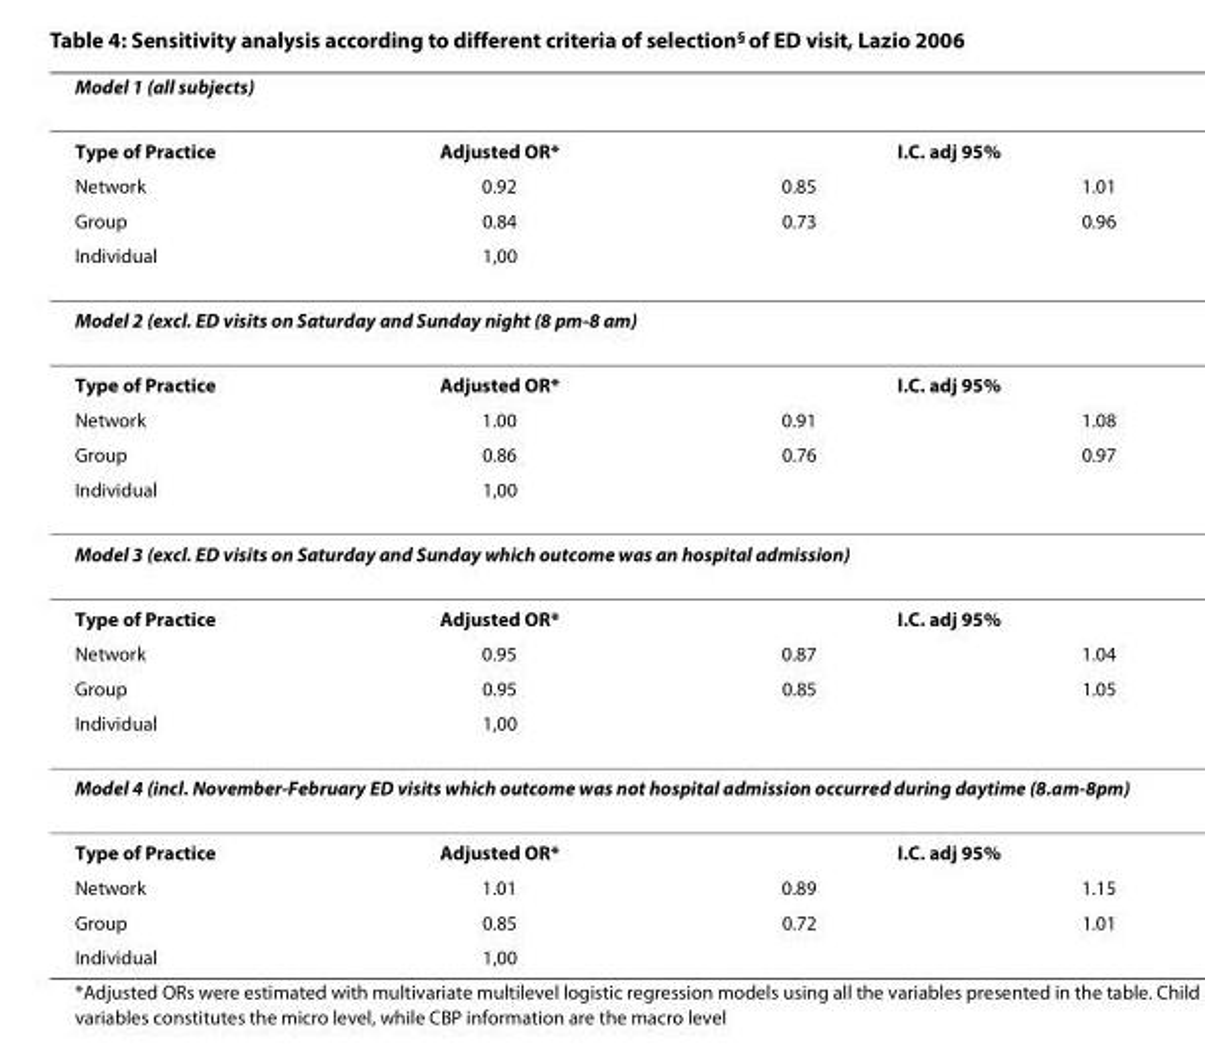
<table><thead><tr><td colspan="4">Model 1 (all subjects)</td></tr><tr><td rowspan="2">Type of Practice Network</td><td rowspan="2">Adjusted OR* 0.92</td><td colspan="2">I.C. adj 95%</td></tr><tr><td>0.85</td><td>1.01</td></tr></thead><tbody><tr><td>Group</td><td>0.84</td><td>0.73</td><td>0.96</td></tr><tr><td>Individual</td><td>1,00</td><td></td><td></td></tr><tr><td colspan="4">Model 2 (excl. ED visits on Saturday and Sunday night (8 pm-8 am)</td></tr><tr><td>Type of Practice</td><td>Adjusted OR*</td><td colspan="2">I.C. adj 95%</td></tr><tr><td>Network</td><td>1.00</td><td>0.91</td><td>1.08</td></tr><tr><td>Group</td><td>0.86</td><td>0.76</td><td>0.97</td></tr><tr><td>Individual</td><td>1,00</td><td></td><td></td></tr><tr><td colspan="4">Model 3 (excl. ED visits on Saturday and Sunday which outcome was an hospital admission)</td></tr><tr><td>Type of Practice</td><td>Adjusted OR*</td><td colspan="2">I.C. adj 95%</td></tr><tr><td>Network</td><td>0.95</td><td>0.87</td><td>1.04</td></tr><tr><td>Group</td><td>0.95</td><td>0.85</td><td>1.05</td></tr><tr><td>Individual</td><td>1,00</td><td></td><td></td></tr><tr><td colspan="4">Model 4 (incl. November-February ED visits which outcome was not hospital admission occurred during daytime (8.am-8pm)</td></tr><tr><td>Type of Practice</td><td>Adjusted OR*</td><td colspan="2">I.C. adj 95%</td></tr><tr><td>Network</td><td>1.01</td><td>0.89</td><td>1.15</td></tr><tr><td>Group</td><td>0.85</td><td>0.72</td><td>1.01</td></tr><tr><td>Individual</td><td>1,00</td><td></td><td></td></tr></tbody></table>